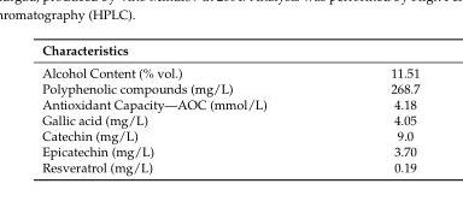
<table><thead><tr><td>Characteristics</td><td></td></tr></thead><tbody><tr><td>Alcohol Content (% vol.)</td><td>11.51</td></tr><tr><td>Polyphenolic compounds (mg/L)</td><td>268.7</td></tr><tr><td>Antioxidant Capacity—AOC (mmol/L)</td><td>4.18</td></tr><tr><td>Gallic acid (mg/L)</td><td>4.05</td></tr><tr><td>Catechin (mg/L)</td><td>9.0</td></tr><tr><td>Epicatechin (mg/L)</td><td>3.70</td></tr><tr><td>Resveratrol (mg/L)</td><td>0.19</td></tr></tbody></table>